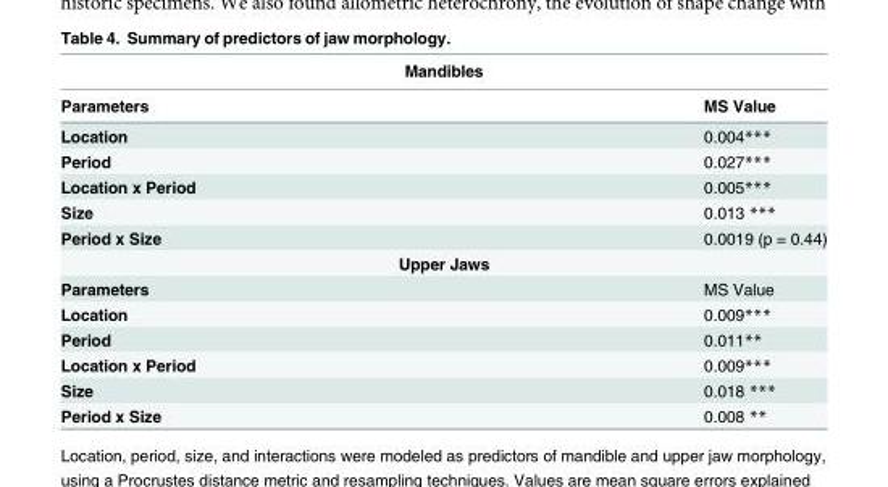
<table><thead><tr><td colspan="2">Mandibles</td></tr><tr><td>Parameters</td><td>MS Value</td></tr></thead><tbody><tr><td>Location</td><td>0.004***</td></tr><tr><td>Period</td><td>0.027***</td></tr><tr><td>Location x Period</td><td>0.005***</td></tr><tr><td>Size</td><td>0.013 ***</td></tr><tr><td>Period x Size</td><td>0.0019 (p = 0.44)</td></tr><tr><td colspan="2">Upper Jaws</td></tr><tr><td>Parameters</td><td>MS Value</td></tr><tr><td>Location</td><td>0.009***</td></tr><tr><td>Period</td><td>0.011**</td></tr><tr><td>Location x Period</td><td>0.009***</td></tr><tr><td>Size</td><td>0.018 ***</td></tr><tr><td>Period x Size</td><td>0.008 **</td></tr></tbody></table>